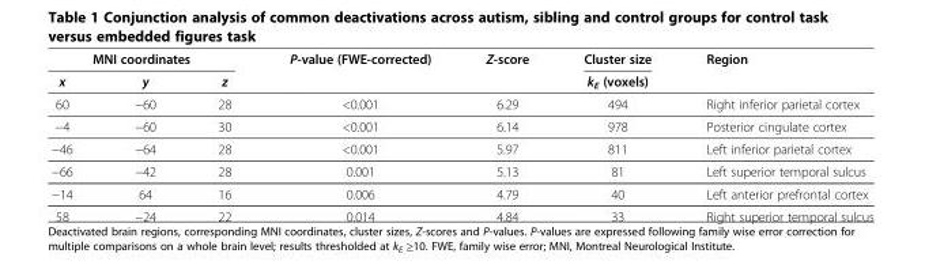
<table><thead><tr><td colspan="3">MNI coordinates</td><td rowspan="2">P-value (FWE-corrected)</td><td rowspan="2">Z-score</td><td rowspan="2">Cluster size k<sub>E</sub> (voxels)</td><td rowspan="2">Region</td></tr><tr><td>x</td><td>y</td><td>z</td></tr></thead><tbody><tr><td>60</td><td>−60</td><td>28</td><td>&lt;0.001</td><td>6.29</td><td>494</td><td>Right inferior parietal cortex</td></tr><tr><td>−4</td><td>−60</td><td>30</td><td>&lt;0.001</td><td>6.14</td><td>978</td><td>Posterior cingulate cortex</td></tr><tr><td>−46</td><td>−64</td><td>28</td><td>&lt;0.001</td><td>5.97</td><td>811</td><td>Left inferior parietal cortex</td></tr><tr><td>−66</td><td>−42</td><td>28</td><td>0.001</td><td>5.13</td><td>81</td><td>Left superior temporal sulcus</td></tr><tr><td>−14</td><td>64</td><td>16</td><td>0.006</td><td>4.79</td><td>40</td><td>Left anterior prefrontal cortex</td></tr><tr><td>58</td><td>−24</td><td>22</td><td>0.014</td><td>4.84</td><td>33</td><td>Right superior temporal sulcus</td></tr></tbody></table>